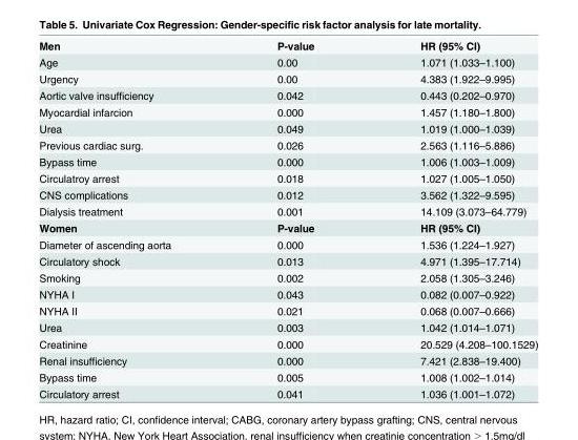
<table><tbody><tr><td>Men</td><td>P-value</td><td>HR (95% CI)</td></tr><tr><td>Age</td><td>0.00</td><td>1.071 (1.033–1.100)</td></tr><tr><td>Urgency</td><td>0.00</td><td>4.383 (1.922–9.995)</td></tr><tr><td>Aortic valve insufficiency</td><td>0.042</td><td>0.443 (0.202–0.970)</td></tr><tr><td>Myocardial infarcion</td><td>0.000</td><td>1.457 (1.180–1.800)</td></tr><tr><td>Urea</td><td>0.049</td><td>1.019 (1.000–1.039)</td></tr><tr><td>Previous cardiac surg.</td><td>0.026</td><td>2.563 (1.116–5.886)</td></tr><tr><td>Bypass time</td><td>0.000</td><td>1.006 (1.003–1.009)</td></tr><tr><td>Circulatroy arrest</td><td>0.018</td><td>1.027 (1.005–1.050)</td></tr><tr><td>CNS complications</td><td>0.012</td><td>3.562 (1.322–9.595)</td></tr><tr><td>Dialysis treatment</td><td>0.001</td><td>14.109 (3.073–64.779)</td></tr><tr><td>Women</td><td>P-value</td><td>HR (95% CI)</td></tr><tr><td>Diameter of ascending aorta</td><td>0.000</td><td>1.536 (1.224–1.927)</td></tr><tr><td>Circulatory shock</td><td>0.013</td><td>4.971 (1.395–17.714)</td></tr><tr><td>Smoking</td><td>0.002</td><td>2.058 (1.305–3.246)</td></tr><tr><td>NYHA I</td><td>0.043</td><td>0.082 (0.007–0.922)</td></tr><tr><td>NYHA II</td><td>0.021</td><td>0.068 (0.007–0.666)</td></tr><tr><td>Urea</td><td>0.003</td><td>1.042 (1.014–1.071)</td></tr><tr><td>Creatinine</td><td>0.000</td><td>20.529 (4.208–100.1529)</td></tr><tr><td>Renal insufficiency</td><td>0.000</td><td>7.421 (2.838–19.400)</td></tr><tr><td>Bypass time</td><td>0.005</td><td>1.008 (1.002–1.014)</td></tr><tr><td>Circulatory arrest</td><td>0.041</td><td>1.036 (1.001–1.072)</td></tr></tbody></table>